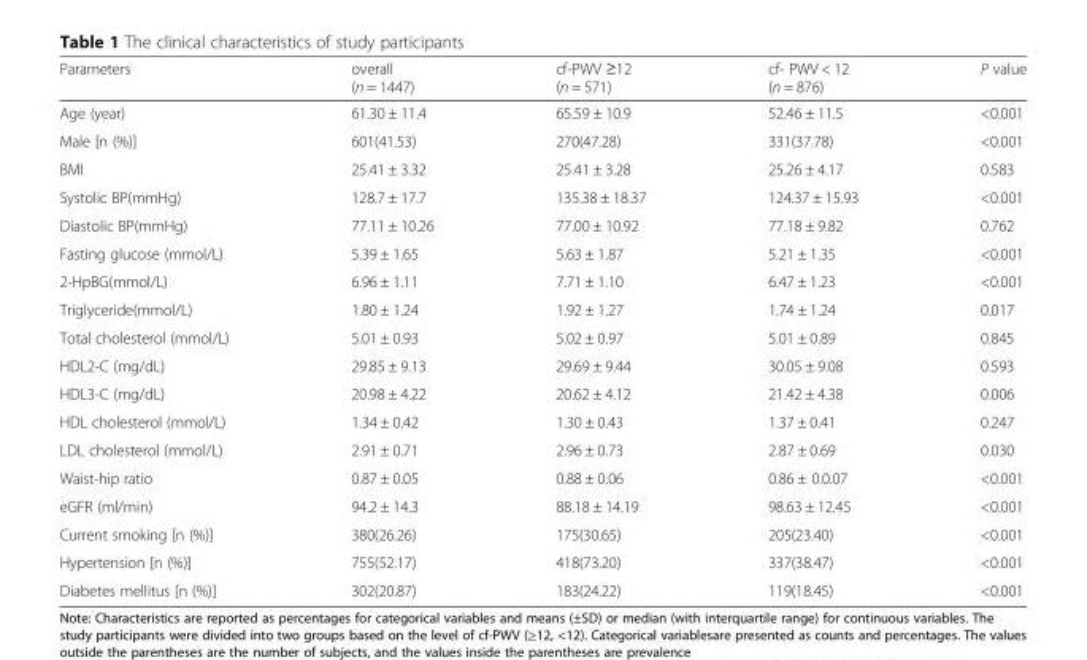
<table><thead><tr><td>Parameters</td><td>overall (n = 1447)</td><td>cf-PWV ≥12 (n = 571)</td><td>cf- PWV &lt; 12 (n = 876)</td><td>P value</td></tr></thead><tbody><tr><td>Age (year)</td><td>61.30 ± 11.4</td><td>65.59 ± 10.9</td><td>52.46 ± 11.5</td><td>&lt;0.001</td></tr><tr><td>Male [n (%)]</td><td>601(41.53)</td><td>270(47.28)</td><td>331(37.78)</td><td>&lt;0.001</td></tr><tr><td>BMI</td><td>25.41 ± 3.32</td><td>25.41 ± 3.28</td><td>25.26 ± 4.17</td><td>0.583</td></tr><tr><td>Systolic BP(mmHg)</td><td>128.7 ± 17.7</td><td>135.38 ± 18.37</td><td>124.37 ± 15.93</td><td>&lt;0.001</td></tr><tr><td>Diastolic BP(mmHg)</td><td>77.11 ± 10.26</td><td>77.00 ± 10.92</td><td>77.18 ± 9.82</td><td>0.762</td></tr><tr><td>Fasting glucose (mmol/L)</td><td>5.39 ± 1.65</td><td>5.63 ± 1.87</td><td>5.21 ± 1.35</td><td>&lt;0.001</td></tr><tr><td>2-HpBG(mmol/L)</td><td>6.96 ± 1.11</td><td>7.71 ± 1.10</td><td>6.47 ± 1.23</td><td>&lt;0.001</td></tr><tr><td>Triglyceride(mmol/L)</td><td>1.80 ± 1.24</td><td>1.92 ± 1.27</td><td>1.74 ± 1.24</td><td>0.017</td></tr><tr><td>Total cholesterol (mmol/L)</td><td>5.01 ± 0.93</td><td>5.02 ± 0.97</td><td>5.01 ± 0.89</td><td>0.845</td></tr><tr><td>HDL2-C (mg/dL)</td><td>29.85 ± 9.13</td><td>29.69 ± 9.44</td><td>30.05 ± 9.08</td><td>0.593</td></tr><tr><td>HDL3-C (mg/dL)</td><td>20.98 ± 4.22</td><td>20.62 ± 4.12</td><td>21.42 ± 4.38</td><td>0.006</td></tr><tr><td>HDL cholesterol (mmol/L)</td><td>1.34 ± 0.42</td><td>1.30 ± 0.43</td><td>1.37 ± 0.41</td><td>0.247</td></tr><tr><td>LDL cholesterol (mmol/L)</td><td>2.91 ± 0.71</td><td>2.96 ± 0.73</td><td>2.87 ± 0.69</td><td>0.030</td></tr><tr><td>Waist-hip ratio</td><td>0.87 ± 0.05</td><td>0.88 ± 0.06</td><td>0.86 ± 0.0.07</td><td>&lt;0.001</td></tr><tr><td>eGFR (ml/min)</td><td>94.2 ± 14.3</td><td>88.18 ± 14.19</td><td>98.63 ± 12.45</td><td>&lt;0.001</td></tr><tr><td>Current smoking [n (%)]</td><td>380(26.26)</td><td>175(30.65)</td><td>205(23.40)</td><td>&lt;0.001</td></tr><tr><td>Hypertension [n (%)]</td><td>755(52.17)</td><td>418(73.20)</td><td>337(38.47)</td><td>&lt;0.001</td></tr><tr><td>Diabetes mellitus [n (%)]</td><td>302(20.87)</td><td>183(24.22)</td><td>119(18.45)</td><td>&lt;0.001</td></tr></tbody></table>